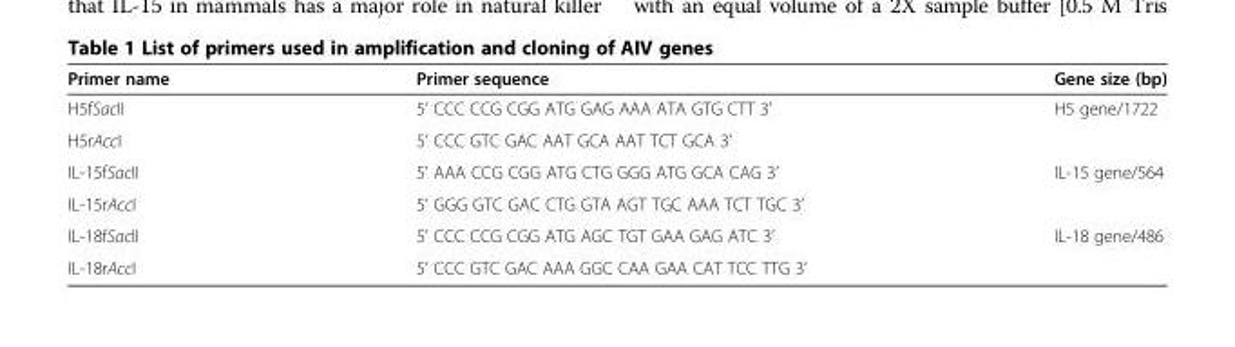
<table><thead><tr><td>Primer name</td><td>Primer sequence</td><td>Gene size (bp)</td></tr></thead><tbody><tr><td>H5fSacII</td><td>5’ CCC CCG CGG ATG GAG AAA ATA GTG CTT 3’</td><td>H5 gene/1722</td></tr><tr><td>H5rAccI</td><td>5’ CCC GTC GAC AAT GCA AAT TCT GCA 3’</td><td></td></tr><tr><td>IL-15fSacII</td><td>5’ AAA CCG CGG ATG CTG GGG ATG GCA CAG 3’</td><td>IL-15 gene/564</td></tr><tr><td>IL-15rAccI</td><td>5’ GGG GTC GAC CTG GTA AGT TGC AAA TCT TGC 3’</td><td></td></tr><tr><td>IL-18fSacII</td><td>5’ CCC CCG CGG ATG AGC TGT GAA GAG ATC 3’</td><td>IL-18 gene/486</td></tr><tr><td>IL-18rAccI</td><td>5’ CCC GTC GAC AAA GGC CAA GAA CAT TCC TTG 3’</td><td></td></tr></tbody></table>